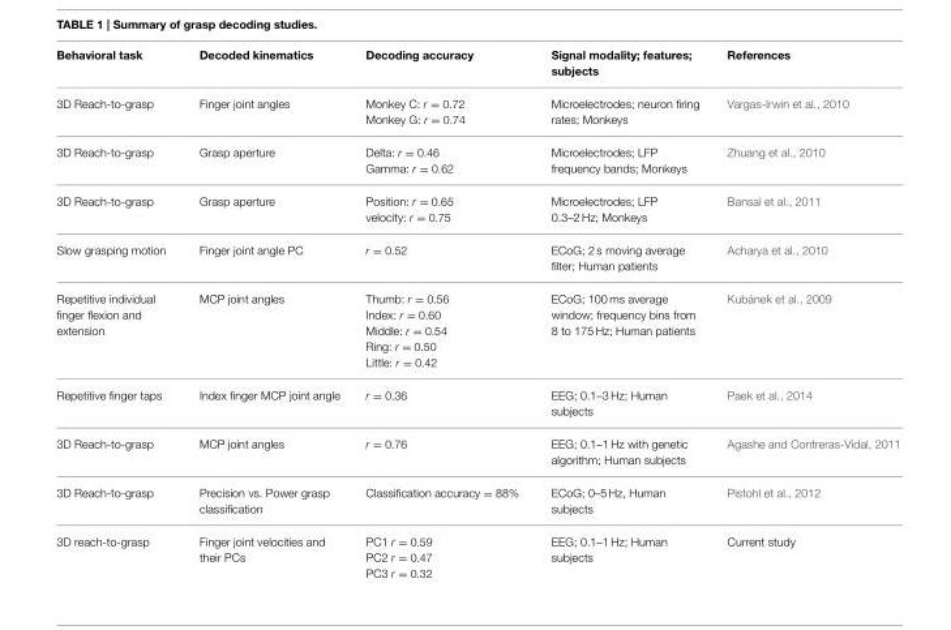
<table><thead><tr><td>Behavioral task</td><td>Decoded kinematics</td><td>Decoding accuracy</td><td>Signal modality; features; subjects</td><td>References</td></tr></thead><tbody><tr><td>3D Reach-to-grasp</td><td>Finger joint angles</td><td>Monkey C: r = 0.72 Monkey G: r = 0.74</td><td>Microelectrodes; neuron firing rates; Monkeys</td><td>Vargas-Irwin et al., 2010</td></tr><tr><td>3D Reach-to-grasp</td><td>Grasp aperture</td><td>Delta: r = 0.46 Gamma: r = 0.62</td><td>Microelectrodes; LFP frequency bands; Monkeys</td><td>Zhuang et al., 2010</td></tr><tr><td>3D Reach-to-grasp</td><td>Grasp aperture</td><td>Position: r = 0.65 velocity: r = 0.75</td><td>Microelectrodes; LFP 0.3–2 Hz; Monkeys</td><td>Bansal et al., 2011</td></tr><tr><td>Slow grasping motion</td><td>Finger joint angle PC</td><td>r = 0.52</td><td>ECoG; 2 s moving average filter; Human patients</td><td>Acharya et al., 2010</td></tr><tr><td>Repetitive individual finger flexion and extension</td><td>MCP joint angles</td><td>Thumb: r = 0.56 Index: r = 0.60 Middle: r = 0.54 Ring: r = 0.50 Little: r = 0.42</td><td>ECoG; 100 ms average window; frequency bins from 8 to 175 Hz; Human patients</td><td>Kubánek et al., 2009</td></tr><tr><td>Repetitive finger taps</td><td>Index finger MCP joint angle</td><td>r = 0.36</td><td>EEG; 0.1–3 Hz; Human subjects</td><td>Paek et al., 2014</td></tr><tr><td>3D Reach-to-grasp</td><td>MCP joint angles</td><td>r = 0.76</td><td>EEG; 0.1–1 Hz with genetic algorithm; Human subjects</td><td>Agashe and Contreras-Vidal, 2011</td></tr><tr><td>3D Reach-to-grasp</td><td>Precision vs. Power grasp classification</td><td>Classification accuracy = 88%</td><td>ECoG; 0–5 Hz, Human subjects</td><td>Pistohl et al., 2012</td></tr><tr><td>3D reach-to-grasp</td><td>Finger joint velocities and their PCs</td><td>PC1 r = 0.59 PC2 r = 0.47 PC3 r = 0.32</td><td>EEG; 0.1–1 Hz; Human subjects</td><td>Current study</td></tr></tbody></table>